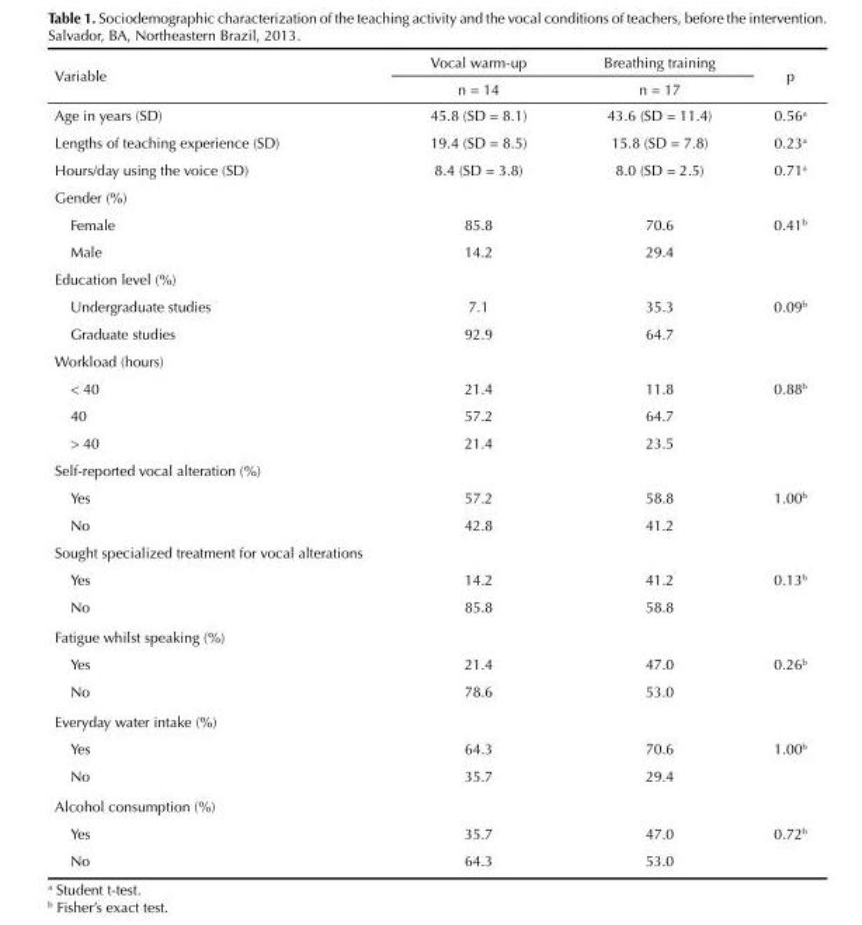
<table><thead><tr><td rowspan="2">Variable</td><td rowspan="2">Vocal warm-up n = 14</td><td rowspan="2">Breathing training n = 17</td><td rowspan="2">p</td></tr><tr></tr></thead><tbody><tr><td>Age in years (SD)</td><td>45.8 (SD = 8.1)</td><td>43.6 (SD = 11.4)</td><td>0.56a</td></tr><tr><td>Lengths of teaching experience (SD)</td><td>19.4 (SD = 8.5)</td><td>15.8 (SD = 7.8)</td><td>0.23<sup>a</sup></td></tr><tr><td>Hours/day using the voice (SD)</td><td>8.4 (SD = 3.8)</td><td>8.0 (SD = 2.5)</td><td>0.71<sup>a</sup></td></tr><tr><td colspan="4">Gender (%)</td></tr><tr><td>Female</td><td>85.8</td><td>70.6</td><td>0.41<sup>b</sup></td></tr><tr><td>Male</td><td>14.2</td><td>29.4</td><td></td></tr><tr><td colspan="4">Education level (%)</td></tr><tr><td>Undergraduate studies</td><td>7.1</td><td>35.3</td><td>0.09<sup>b</sup></td></tr><tr><td>Graduate studies</td><td>92.9</td><td>64.7</td><td></td></tr><tr><td colspan="4">Workload (hours)</td></tr><tr><td>&lt; 40</td><td>21.4</td><td>11.8</td><td>0.88<sup>b</sup></td></tr><tr><td>40</td><td>57.2</td><td>64.7</td><td></td></tr><tr><td>&gt; 40</td><td>21.4</td><td>23.5</td><td></td></tr><tr><td colspan="4">Self-reported vocal alteration (%)</td></tr><tr><td>Yes</td><td>57.2</td><td>58.8</td><td>1.00<sup>b</sup></td></tr><tr><td>No</td><td>42.8</td><td>41.2</td><td></td></tr><tr><td colspan="4">Sought specialized treatment for vocal alterations</td></tr><tr><td>Yes</td><td>14.2</td><td>41.2</td><td>0.13<sup>b</sup></td></tr><tr><td>No</td><td>85.8</td><td>58.8</td><td></td></tr><tr><td colspan="4">Fatigue whilst speaking (%)</td></tr><tr><td>Yes</td><td>21.4</td><td>47.0</td><td>0.26<sup>b</sup></td></tr><tr><td>No</td><td>78.6</td><td>53.0</td><td></td></tr><tr><td colspan="4">Everyday water intake (%)</td></tr><tr><td>Yes</td><td>64.3</td><td>70.6</td><td>1.00<sup>b</sup></td></tr><tr><td>No</td><td>35.7</td><td>29.4</td><td></td></tr><tr><td colspan="4">Alcohol consumption (%)</td></tr><tr><td>Yes</td><td>35.7</td><td>47.0</td><td>0.72<sup>b</sup></td></tr><tr><td>No</td><td>64.3</td><td>53.0</td><td></td></tr></tbody></table>